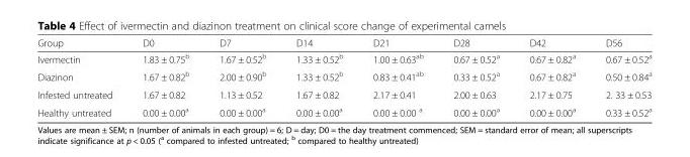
<table><thead><tr><td>Group</td><td>D0</td><td>D7</td><td>D14</td><td>D21</td><td>D28</td><td>D42</td><td>D56</td></tr></thead><tbody><tr><td>Ivermectin</td><td>1.83 ± 0.75<sup>b</sup></td><td>1.67 ± 0.52<sup>b</sup></td><td>1.33 ± 0.52<sup>b</sup></td><td>1.00 ± 0.63<sup>ab</sup></td><td>0.67 ± 0.52<sup>a</sup></td><td>0.67 ± 0.82<sup>a</sup></td><td>0.67 ± 0.52<sup>a</sup></td></tr><tr><td>Diazinon</td><td>1.67 ± 0.82<sup>b</sup></td><td>2.00 ± 0.90<sup>b</sup></td><td>1.33 ± 0.52<sup>b</sup></td><td>0.83 ± 0.41<sup>ab</sup></td><td>0.33 ± 0.52<sup>a</sup></td><td>0.67 ± 0.82<sup>a</sup></td><td>0.50 ± 0.84<sup>a</sup></td></tr><tr><td>Infested untreated</td><td>1.67 ± 0.82</td><td>1.13 ± 0.52</td><td>1.67 ± 0.82</td><td>2.17 ± 0.41</td><td>2.00 ± 0.63</td><td>2.17 ± 0.75</td><td>2. 33 ± 0.53</td></tr><tr><td>Healthy untreated</td><td>0.00 ± 0.00<sup>a</sup></td><td>0.00 ± 0.00<sup>a</sup></td><td>0.00 ± 0.00<sup>a</sup></td><td>0.00 ± 0.00 <sup>a</sup></td><td>0.00 ± 0.00<sup>a</sup></td><td>0.00 ± 0.00<sup>a</sup></td><td>0.33 ± 0.52<sup>a</sup></td></tr></tbody></table>